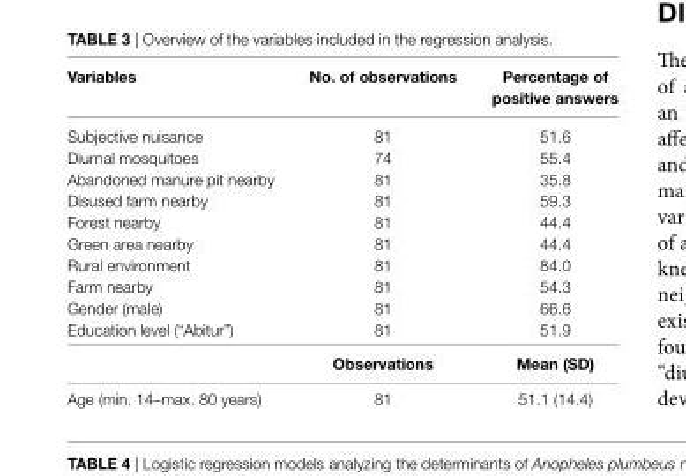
<table><thead><tr><td>Variables</td><td>no. of observations</td><td>Percentage of positive answers</td></tr></thead><tbody><tr><td>Subjective nuisance</td><td>81</td><td>51.6</td></tr><tr><td>Diurnal mosquitoes</td><td>74</td><td>55.4</td></tr><tr><td>Abandoned manure pit nearby</td><td>81</td><td>35.8</td></tr><tr><td>Disused farm nearby</td><td>81</td><td>59.3</td></tr><tr><td>Forest nearby</td><td>81</td><td>44.4</td></tr><tr><td>Green area nearby</td><td>81</td><td>44.4</td></tr><tr><td>Rural environment</td><td>81</td><td>84.0</td></tr><tr><td>Farm nearby</td><td>81</td><td>54.3</td></tr><tr><td>Gender (male)</td><td>81</td><td>66.6</td></tr><tr><td rowspan="2">Education level (“Abitur”)</td><td>81</td><td>51.9</td></tr><tr><td>Observations</td><td>Mean (sD)</td></tr><tr><td>Age (min. 14–max. 80 years)</td><td>81</td><td>51.1 (14.4)</td></tr></tbody></table>